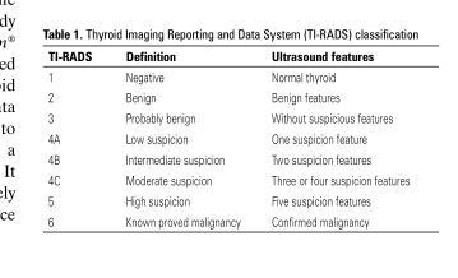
<table><thead><tr><td>TI-RADS</td><td>Definition</td><td>Ultrasound features</td></tr></thead><tbody><tr><td>1</td><td>Negative</td><td>Normal thyroid</td></tr><tr><td>2</td><td>Benign</td><td>Benign features</td></tr><tr><td>3</td><td>Probably benign</td><td>Without suspicious features</td></tr><tr><td>4A</td><td>Low suspicion</td><td>One suspicion feature</td></tr><tr><td>4B</td><td>Intermediate suspicion</td><td>Two suspicion features</td></tr><tr><td>4C</td><td>Moderate suspicion</td><td>Three or four suspicion features</td></tr><tr><td>5</td><td>High suspicion</td><td>Five suspicion features</td></tr><tr><td>6</td><td>Known proved malignancy</td><td>Confirmed malignancy</td></tr></tbody></table>